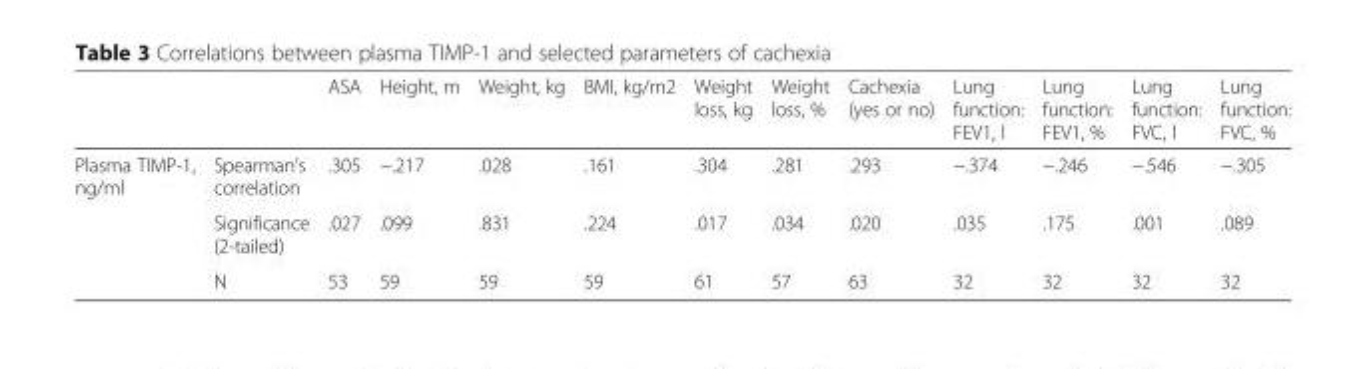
<table><thead><tr><td></td><td></td><td>ASA</td><td>Height, m</td><td>Weight, kg</td><td>BMI, kg/m2</td><td>Weight loss, kg</td><td>Weight loss, %</td><td>Cachexia (yes or no)</td><td>Lung function: FEV1, l</td><td>Lung function: FEV1, %</td><td>Lung function: FVC, l</td><td>Lung function: FVC, %</td></tr></thead><tbody><tr><td rowspan="3">Plasma TIMP-1, ng/ml</td><td>Spearman’s correlation</td><td>.305</td><td>−.217</td><td>.028</td><td>.161</td><td>.304</td><td>.281</td><td>.293</td><td>−.374</td><td>−.246</td><td>−.546</td><td>−.305</td></tr><tr><td>Significance (2-tailed)</td><td>.027</td><td>.099</td><td>.831</td><td>.224</td><td>.017</td><td>.034</td><td>.020</td><td>.035</td><td>.175</td><td>.001</td><td>.089</td></tr><tr><td>N</td><td>53</td><td>59</td><td>59</td><td>59</td><td>61</td><td>57</td><td>63</td><td>32</td><td>32</td><td>32</td><td>32</td></tr></tbody></table>